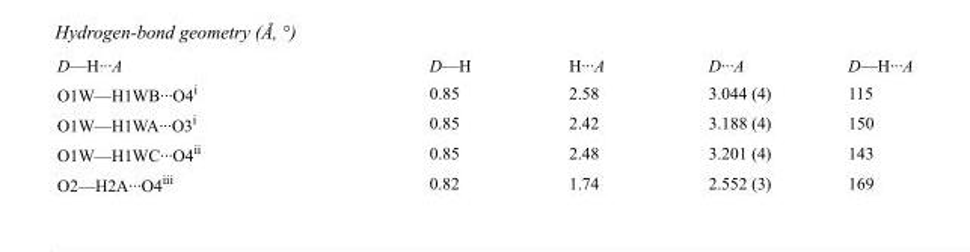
<table><tbody><tr><td>D—H···A</td><td>D—H</td><td>H···A</td><td>D···A</td><td>D—H···A</td></tr><tr><td>O1W—H1WB···O4<sup>i</sup></td><td>0.85</td><td>2.58</td><td>3.044 (4)</td><td>115</td></tr><tr><td>O1W—H1WA···O3<sup>i</sup></td><td>0.85</td><td>2.42</td><td>3.188 (4)</td><td>150</td></tr><tr><td>O1W—H1WC···O4<sup>ii</sup></td><td>0.85</td><td>2.48</td><td>3.201 (4)</td><td>143</td></tr><tr><td>O2—H2A···O4<sup>iii</sup></td><td>0.82</td><td>1.74</td><td>2.552 (3)</td><td>169</td></tr></tbody></table>